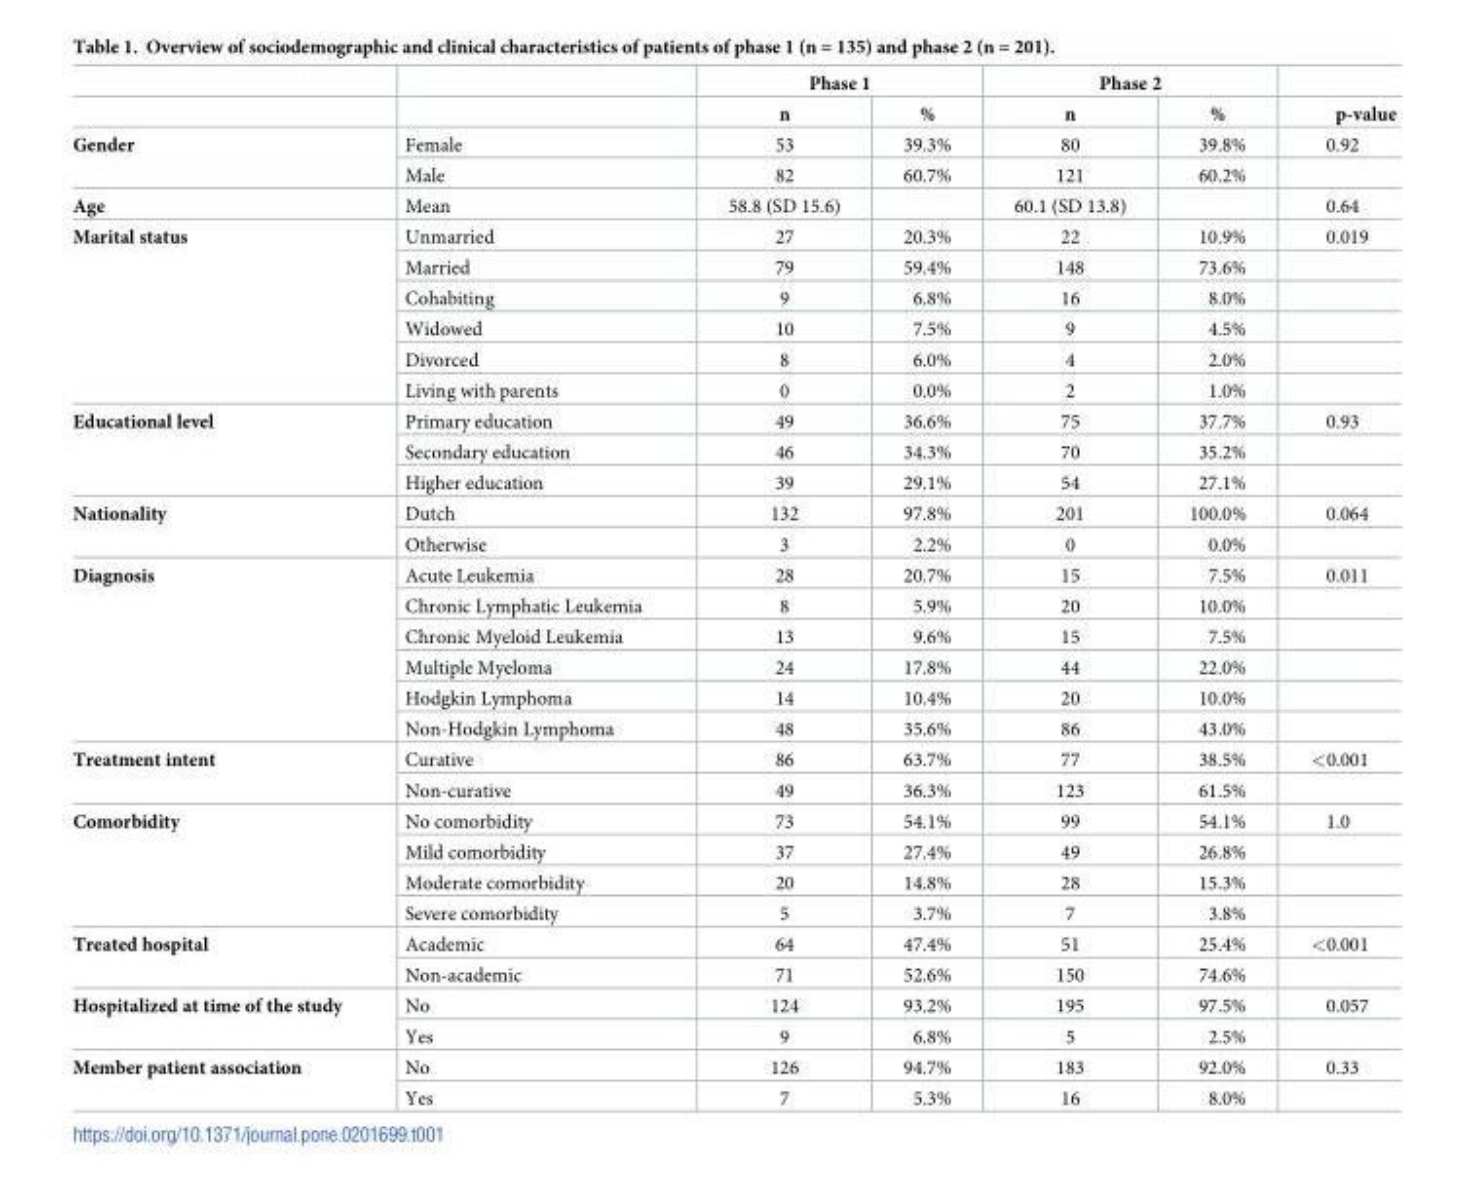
<table><thead><tr><td rowspan="2"></td><td rowspan="2"></td><td colspan="2">Phase 1</td><td colspan="2">Phase 2</td><td rowspan="2">p-value</td></tr><tr><td>n</td><td>%</td><td>n</td><td>%</td></tr></thead><tbody><tr><td rowspan="2">Gender</td><td>Female</td><td>53</td><td>39.3%</td><td>80</td><td>39.8%</td><td>0.92</td></tr><tr><td>Male</td><td>82</td><td>60.7%</td><td>121</td><td>60.2%</td><td></td></tr><tr><td>Age</td><td>Mean</td><td>58.8 (SD 15.6)</td><td></td><td>60.1 (SD 13.8)</td><td></td><td>0.64</td></tr><tr><td rowspan="6">Marital status</td><td>Unmarried</td><td>27</td><td>20.3%</td><td>22</td><td>10.9%</td><td>0.019</td></tr><tr><td>Married</td><td>79</td><td>59.4%</td><td>148</td><td>73.6%</td><td></td></tr><tr><td>Cohabiting</td><td>9</td><td>6.8%</td><td>16</td><td>8.0%</td><td></td></tr><tr><td>Widowed</td><td>10</td><td>7.5%</td><td>9</td><td>4.5%</td><td></td></tr><tr><td>Divorced</td><td>8</td><td>6.0%</td><td>4</td><td>2.0%</td><td></td></tr><tr><td>Living with parents</td><td>0</td><td>0.0%</td><td>2</td><td>1.0%</td><td></td></tr><tr><td rowspan="3">Educational level</td><td>Primary education</td><td>49</td><td>36.6%</td><td>75</td><td>37.7%</td><td>0.93</td></tr><tr><td>Secondary education</td><td>46</td><td>34.3%</td><td>70</td><td>35.2%</td><td></td></tr><tr><td>Higher education</td><td>39</td><td>29.1%</td><td>54</td><td>27.1%</td><td></td></tr><tr><td rowspan="2">Nationality</td><td>Dutch</td><td>132</td><td>97.8%</td><td>201</td><td>100.0%</td><td>0.064</td></tr><tr><td>Otherwise</td><td>3</td><td>2.2%</td><td>0</td><td>0.0%</td><td></td></tr><tr><td rowspan="6">Diagnosis</td><td>Acute Leukemia</td><td>28</td><td>20.7%</td><td>15</td><td>7.5%</td><td>0.011</td></tr><tr><td>Chronic Lymphatic Leukemia</td><td>8</td><td>5.9%</td><td>20</td><td>10.0%</td><td></td></tr><tr><td>Chronic Myeloid Leukemia</td><td>13</td><td>9.6%</td><td>15</td><td>7.5%</td><td></td></tr><tr><td>Multiple Myeloma</td><td>24</td><td>17.8%</td><td>44</td><td>22.0%</td><td></td></tr><tr><td>Hodgkin Lymphoma</td><td>14</td><td>10.4%</td><td>20</td><td>10.0%</td><td></td></tr><tr><td>Non-Hodgkin Lymphoma</td><td>48</td><td>35.6%</td><td>86</td><td>43.0%</td><td></td></tr><tr><td rowspan="2">Treatment intent</td><td>Curative</td><td>86</td><td>63.7%</td><td>77</td><td>38.5%</td><td>&lt;0.001</td></tr><tr><td>Non-curative</td><td>49</td><td>36.3%</td><td>123</td><td>61.5%</td><td></td></tr><tr><td rowspan="4">Comorbidity</td><td>No comorbidity</td><td>73</td><td>54.1%</td><td>99</td><td>54.1%</td><td>1.0</td></tr><tr><td>Mild comorbidity</td><td>37</td><td>27.4%</td><td>49</td><td>26.8%</td><td></td></tr><tr><td>Moderate comorbidity</td><td>20</td><td>14.8%</td><td>28</td><td>15.3%</td><td></td></tr><tr><td>Severe comorbidity</td><td>5</td><td>3.7%</td><td>7</td><td>3.8%</td><td></td></tr><tr><td rowspan="2">Treated hospital</td><td>Academic</td><td>64</td><td>47.4%</td><td>51</td><td>25.4%</td><td>&lt;0.001</td></tr><tr><td>Non-academic</td><td>71</td><td>52.6%</td><td>150</td><td>74.6%</td><td></td></tr><tr><td rowspan="2">Hospitalized at time of the study</td><td>No</td><td>124</td><td>93.2%</td><td>195</td><td>97.5%</td><td>0.057</td></tr><tr><td>Yes</td><td>9</td><td>6.8%</td><td>5</td><td>2.5%</td><td></td></tr><tr><td rowspan="2">Member patient association</td><td>No</td><td>126</td><td>94.7%</td><td>183</td><td>92.0%</td><td>0.33</td></tr><tr><td>Yes</td><td>7</td><td>5.3%</td><td>16</td><td>8.0%</td><td></td></tr></tbody></table>